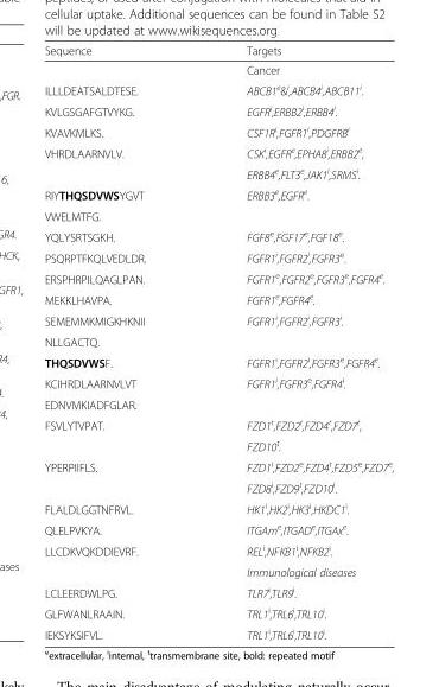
<table><thead><tr><td>Sequence</td><td>Targets</td></tr></thead><tbody><tr><td></td><td>Cancer</td></tr><tr><td>ILLLDEATSALDTESE.</td><td>ABCB1<sup>e</sup>&amp;<sup>i</sup>,ABCB4<sup>i</sup>,ABCB11<sup>i</sup>.</td></tr><tr><td>KVLGSGAFGTVYKG.</td><td>EGFR<sup>i</sup>,ERBB2<sup>i</sup>,ERBB4<sup>i</sup>.</td></tr><tr><td>KVAVKMLKS.</td><td>CSF1R<sup>i</sup>,FGFR1<sup>i</sup>,PDGFRB<sup>i</sup></td></tr><tr><td rowspan="2">VHRDLAARNVLV.</td><td>CSK<sup>i</sup>,EGFR<sup>e</sup>,EPHA8<sup>i</sup>,ERBB2<sup>e</sup>,</td></tr><tr><td>ERBB4<sup>e</sup>,FLT3<sup>e</sup>,JAK1<sup>i</sup>,SRMS<sup>i</sup>.</td></tr><tr><td>RIYTHQSDVWSYGVT</td><td>ERBB3<sup>e</sup>,EGFR<sup>e</sup>.</td></tr><tr><td colspan="2">VWELMTFG.</td></tr><tr><td>YQLYSRTSGKH.</td><td>FGF8<sup>e</sup>,FGF17<sup>e</sup>,FGF18<sup>e</sup>.</td></tr><tr><td>PSQRPTFKQLVEDLDR.</td><td>FGFR1<sup>i</sup>,FGFR2<sup>i</sup>,FGFR3<sup>e</sup>.</td></tr><tr><td>ERSPHRPILQAGLPAN.</td><td>FGFR1<sup>e</sup>,FGFR2<sup>e</sup>,FGFR3<sup>e</sup>,FGFR4<sup>e</sup>.</td></tr><tr><td>MEKKLHAVPA.</td><td>FGFR1<sup>e</sup>,FGFR4<sup>e</sup>.</td></tr><tr><td>SEMEMMKMIGKHKNII</td><td>FGFR1<sup>i</sup>,FGFR2<sup>i</sup>,FGFR3<sup>i</sup>.</td></tr><tr><td colspan="2">NLLGACTQ.</td></tr><tr><td>THQSDVWSF.</td><td>FGFR1<sup>i</sup>,FGFR2<sup>i</sup>,FGFR3<sup>e</sup>,FGFR4<sup>e</sup>.</td></tr><tr><td>KCIHRDLAARNVLVT</td><td>FGFR1<sup>i</sup>,FGFR3<sup>e</sup>,FGFR4<sup>i</sup>.</td></tr><tr><td colspan="2">EDNVMKIADFGLAR.</td></tr><tr><td rowspan="2">FSVLYTVPAT.</td><td>FZD1<sup>t</sup>,FZD2<sup>t</sup>,FZD4<sup>t</sup>,FZD7<sup>t</sup>,</td></tr><tr><td>FZD10<sup>t</sup>.</td></tr><tr><td rowspan="2">YPERPIIFLS.</td><td>FZD1<sup>i</sup>,FZD2<sup>e</sup>,FZD4<sup>t</sup>,FZD5<sup>e</sup>,FZD7<sup>e</sup>,</td></tr><tr><td>FZD8<sup>i</sup>,FZD9<sup>t</sup>,FZD10<sup>i</sup>.</td></tr><tr><td>FLALDLGGTNFRVL.</td><td>HK1<sup>i</sup>,HK2<sup>i</sup>,HK3<sup>i</sup>,HKDC1<sup>i</sup>.</td></tr><tr><td>QLELPVKYA.</td><td>ITGAm<sup>e</sup>,ITGAD<sup>e</sup>,ITGAx<sup>e</sup>.</td></tr><tr><td rowspan="2">LLCDKVQKDDIEVRF.</td><td>REL<sup>i</sup>,NFKB1<sup>i</sup>,NFKB2<sup>i</sup>.</td></tr><tr><td>Immunological diseases</td></tr><tr><td>LCLEERDWLPG.</td><td>TLR7<sup>i</sup>,TLR9<sup>i</sup>.</td></tr><tr><td>GLFWANLRAAIN.</td><td>TRL1<sup>i</sup>,TRL6<sup>i</sup>,TRL10<sup>i</sup>.</td></tr><tr><td>IEKSYKSIFVL.</td><td>TRL1<sup>i</sup>,TRL6<sup>i</sup>,TRL10<sup>i</sup>.</td></tr></tbody></table>